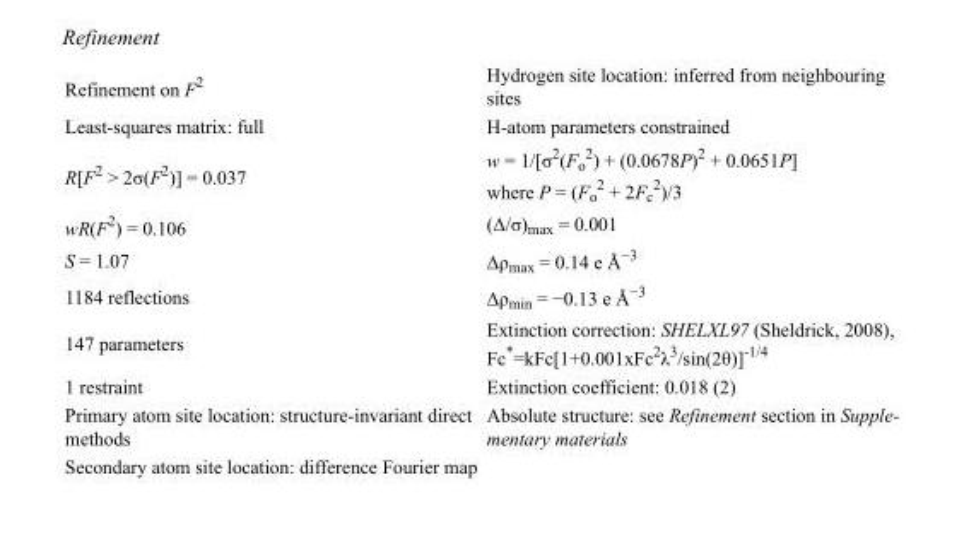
<table><tbody><tr><td>Refinement on F<sup>2</sup></td><td>Hydrogen site location: inferred from neighbouring sites</td></tr><tr><td>Least-squares matrix: full</td><td>H-atom parameters constrained</td></tr><tr><td>R[F<sup>2</sup> &gt; 2σ(F<sup>2</sup>)] = 0.037</td><td>w = 1/[σ<sup>2</sup>(F<sub>o</sub> <sup>2</sup>) + (0.0678P)<sup>2</sup> + 0.0651P] where P = (F<sub>o</sub> <sup>2</sup> + 2F<sub>c</sub> <sup>2</sup>)/3</td></tr><tr><td>wR(F<sup>2</sup>) = 0.106</td><td>(Δ/σ)<sub>max</sub> = 0.001</td></tr><tr><td>S = 1.07</td><td>Δρ<sub>max</sub> = 0.14 e Å<sup>−3</sup></td></tr><tr><td>1184 reflections</td><td>Δρ<sub>min</sub> = −0.13 e Å<sup>−3</sup></td></tr><tr><td>147 parameters</td><td>Extinction correction: SHELXL97 (Sheldrick, 2008), Fc*=kFc[1+0.001xFc<sup>2</sup>λ<sup>3</sup>/sin(2θ)]<sup>-1/4</sup></td></tr><tr><td>1 restraint</td><td>Extinction coefficient: 0.018 (2)</td></tr><tr><td>Primary atom site location: structure-invariant direct methods</td><td>Absolute structure: see Refinement section in Supple- mentary materials</td></tr><tr><td>Secondary atom site location: difference Fourier map</td><td></td></tr></tbody></table>